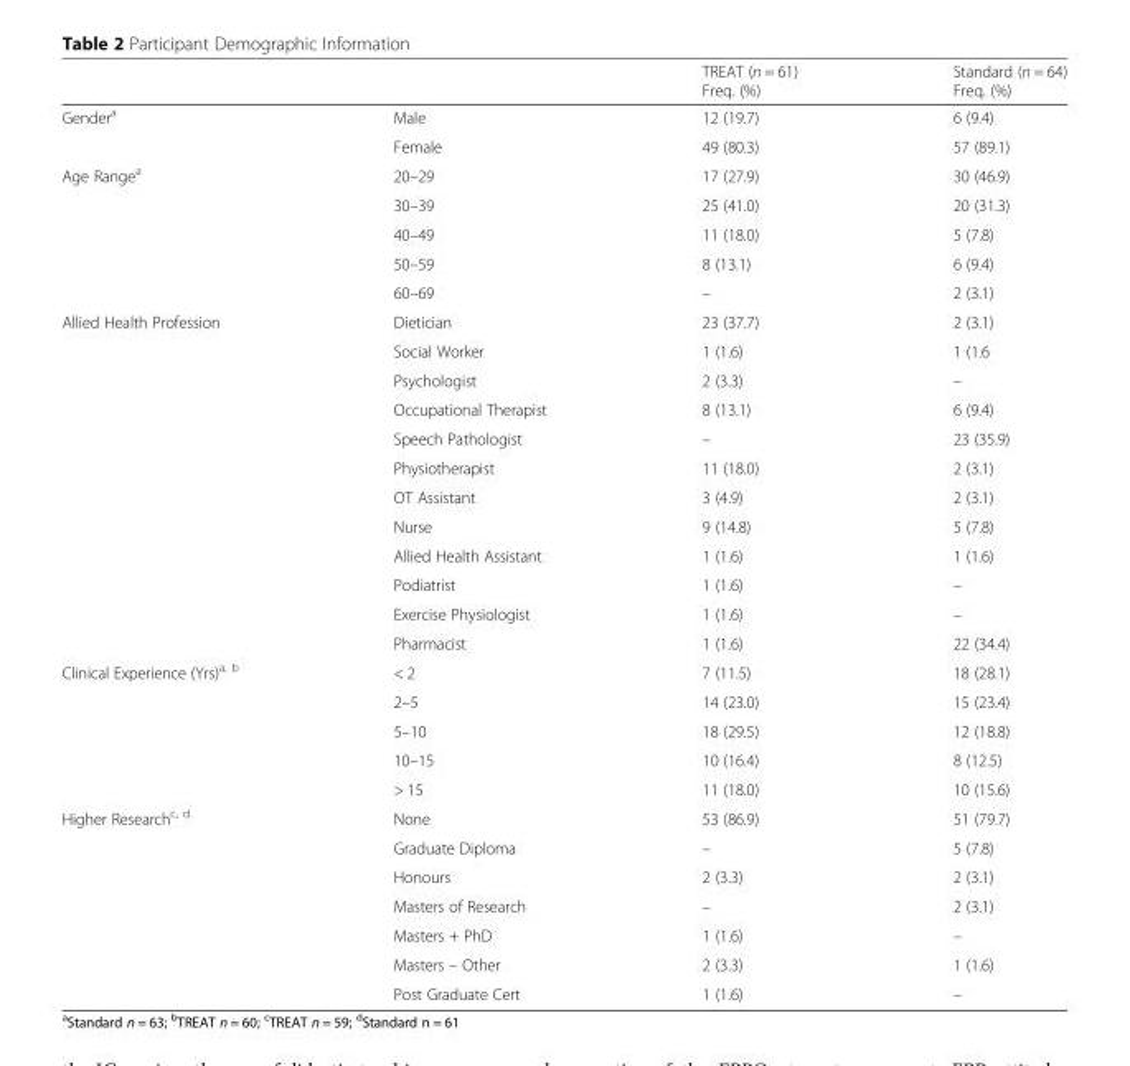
<table><thead><tr><td></td><td></td><td>TREAT (n = 61) Freq. (%)</td><td>Standard (n = 64) Freq. (%)</td></tr></thead><tbody><tr><td rowspan="2">Gender<sup>a</sup></td><td>Male</td><td>12 (19.7)</td><td>6 (9.4)</td></tr><tr><td>Female</td><td>49 (80.3)</td><td>57 (89.1)</td></tr><tr><td rowspan="5">Age Range<sup>a</sup></td><td>20–29</td><td>17 (27.9)</td><td>30 (46.9)</td></tr><tr><td>30–39</td><td>25 (41.0)</td><td>20 (31.3)</td></tr><tr><td>40–49</td><td>11 (18.0)</td><td>5 (7.8)</td></tr><tr><td>50–59</td><td>8 (13.1)</td><td>6 (9.4)</td></tr><tr><td>60–69</td><td>–</td><td>2 (3.1)</td></tr><tr><td rowspan="12">Allied Health Profession</td><td>Dietician</td><td>23 (37.7)</td><td>2 (3.1)</td></tr><tr><td>Social Worker</td><td>1 (1.6)</td><td>1 (1.6</td></tr><tr><td>Psychologist</td><td>2 (3.3)</td><td>–</td></tr><tr><td>Occupational Therapist</td><td>8 (13.1)</td><td>6 (9.4)</td></tr><tr><td>Speech Pathologist</td><td>–</td><td>23 (35.9)</td></tr><tr><td>Physiotherapist</td><td>11 (18.0)</td><td>2 (3.1)</td></tr><tr><td>OT Assistant</td><td>3 (4.9)</td><td>2 (3.1)</td></tr><tr><td>Nurse</td><td>9 (14.8)</td><td>5 (7.8)</td></tr><tr><td>Allied Health Assistant</td><td>1 (1.6)</td><td>1 (1.6)</td></tr><tr><td>Podiatrist</td><td>1 (1.6)</td><td>–</td></tr><tr><td>Exercise Physiologist</td><td>1 (1.6)</td><td>–</td></tr><tr><td>Pharmacist</td><td>1 (1.6)</td><td>22 (34.4)</td></tr><tr><td rowspan="5">Clinical Experience (Yrs)<sup>a, b</sup></td><td>&lt; 2</td><td>7 (11.5)</td><td>18 (28.1)</td></tr><tr><td>2–5</td><td>14 (23.0)</td><td>15 (23.4)</td></tr><tr><td>5–10</td><td>18 (29.5)</td><td>12 (18.8)</td></tr><tr><td>10–15</td><td>10 (16.4)</td><td>8 (12.5)</td></tr><tr><td>&gt; 15</td><td>11 (18.0)</td><td>10 (15.6)</td></tr><tr><td rowspan="7">Higher Research<sup>c, d</sup></td><td>None</td><td>53 (86.9)</td><td>51 (79.7)</td></tr><tr><td>Graduate Diploma</td><td>–</td><td>5 (7.8)</td></tr><tr><td>Honours</td><td>2 (3.3)</td><td>2 (3.1)</td></tr><tr><td>Masters of Research</td><td>–</td><td>2 (3.1)</td></tr><tr><td>Masters + PhD</td><td>1 (1.6)</td><td>–</td></tr><tr><td>Masters – Other</td><td>2 (3.3)</td><td>1 (1.6)</td></tr><tr><td>Post Graduate Cert</td><td>1 (1.6)</td><td>–</td></tr></tbody></table>